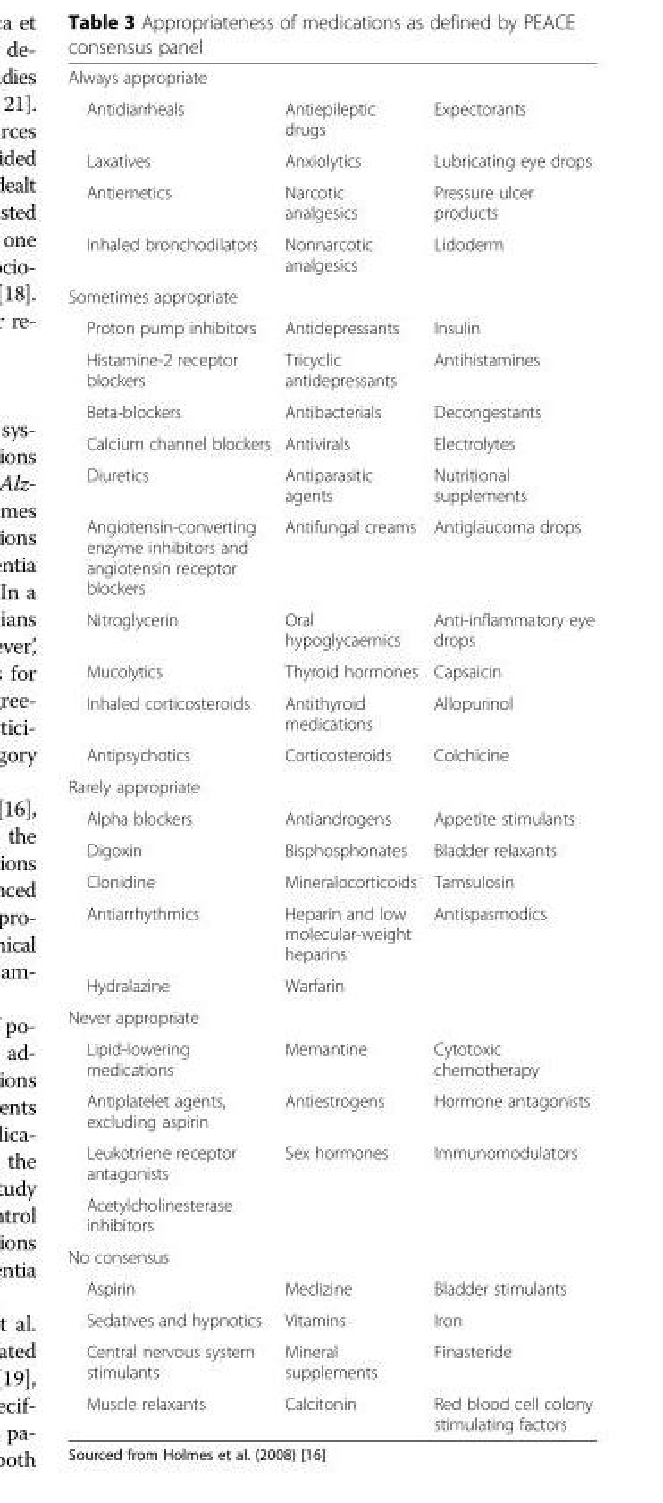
<table><tbody><tr><td colspan="3">Always appropriate</td></tr><tr><td>Antidiarrheals</td><td>Antiepileptic drugs</td><td>Expectorants</td></tr><tr><td>Laxatives</td><td>Anxiolytics</td><td>Lubricating eye drops</td></tr><tr><td>Antiemetics</td><td>Narcotic analgesics</td><td>Pressure ulcer products</td></tr><tr><td>Inhaled bronchodilators</td><td>Nonnarcotic analgesics</td><td>Lidoderm</td></tr><tr><td colspan="3">Sometimes appropriate</td></tr><tr><td>Proton pump inhibitors</td><td>Antidepressants</td><td>Insulin</td></tr><tr><td>Histamine-2 receptor blockers</td><td>Tricyclic antidepressants</td><td>Antihistamines</td></tr><tr><td>Beta-blockers</td><td>Antibacterials</td><td>Decongestants</td></tr><tr><td>Calcium channel blockers</td><td>Antivirals</td><td>Electrolytes</td></tr><tr><td>Diuretics</td><td>Antiparasitic agents</td><td>Nutritional supplements</td></tr><tr><td>Angiotensin-converting enzyme inhibitors and angiotensin receptor blockers</td><td>Antifungal creams</td><td>Antiglaucoma drops</td></tr><tr><td>Nitroglycerin</td><td>Oral hypoglycaemics</td><td>Anti-inflammatory eye drops</td></tr><tr><td>Mucolytics</td><td>Thyroid hormones</td><td>Capsaicin</td></tr><tr><td>Inhaled corticosteroids</td><td>Antithyroid medications</td><td>Allopurinol</td></tr><tr><td>Antipsychotics</td><td>Corticosteroids</td><td>Colchicine</td></tr><tr><td colspan="3">Rarely appropriate</td></tr><tr><td>Alpha blockers</td><td>Antiandrogens</td><td>Appetite stimulants</td></tr><tr><td>Digoxin</td><td>Bisphosphonates</td><td>Bladder relaxants</td></tr><tr><td>Clonidine</td><td>Mineralocorticoids</td><td>Tamsulosin</td></tr><tr><td>Antiarrhythmics</td><td>Heparin and low molecular-weight heparins</td><td>Antispasmodics</td></tr><tr><td>Hydralazine</td><td>Warfarin</td><td></td></tr><tr><td colspan="3">Never appropriate</td></tr><tr><td>Lipid-lowering medications</td><td>Memantine</td><td>Cytotoxic chemotherapy</td></tr><tr><td>Antiplatelet agents, excluding aspirin</td><td>Antiestrogens</td><td>Hormone antagonists</td></tr><tr><td>Leukotriene receptor antagonists</td><td>Sex hormones</td><td>Immunomodulators</td></tr><tr><td colspan="3">Acetylcholinesterase inhibitors</td></tr><tr><td colspan="3">No consensus</td></tr><tr><td>Aspirin</td><td>Meclizine</td><td>Bladder stimulants</td></tr><tr><td>Sedatives and hypnotics</td><td>Vitamins</td><td>Iron</td></tr><tr><td>Central nervous system stimulants</td><td>Mineral supplements</td><td>Finasteride</td></tr><tr><td>Muscle relaxants</td><td>Calcitonin</td><td>Red blood cell colony stimulating factors</td></tr></tbody></table>